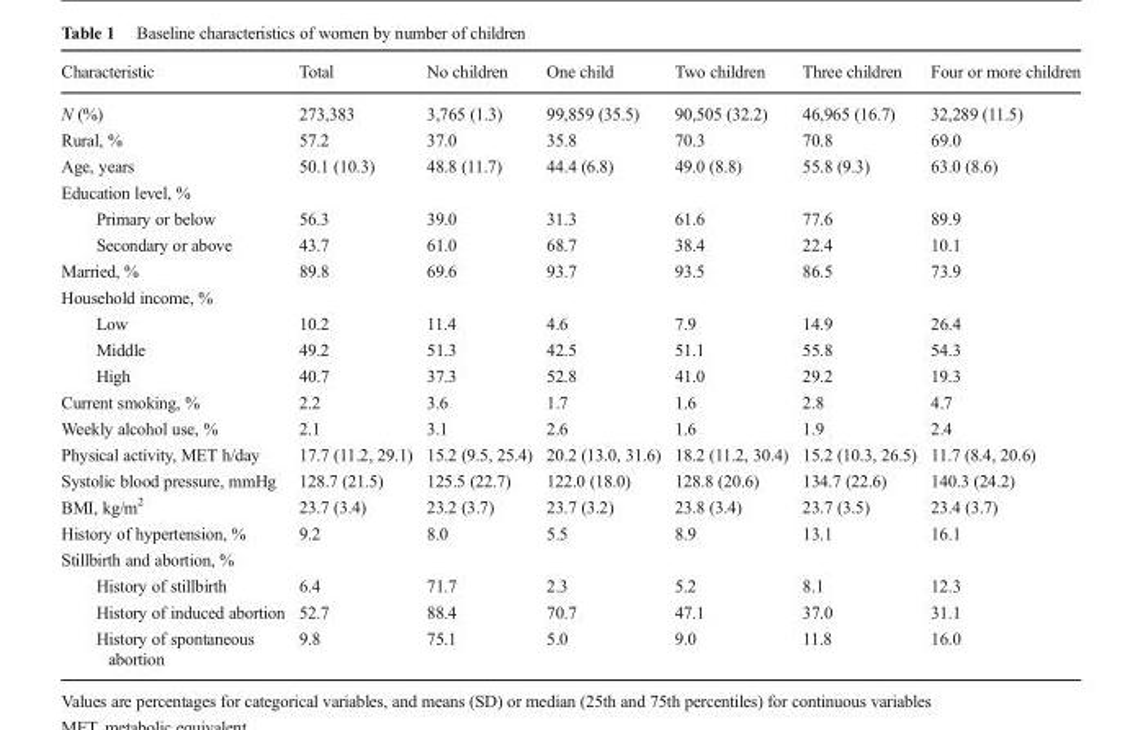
<table><thead><tr><td>Characteristic</td><td>Total</td><td>No children</td><td>One child</td><td>Two children</td><td>Three children</td><td>Four or more children</td></tr></thead><tbody><tr><td>N (%)</td><td>273,383</td><td>3,765 (1.3)</td><td>99,859 (35.5)</td><td>90,505 (32.2)</td><td>46,965 (16.7)</td><td>32,289 (11.5)</td></tr><tr><td>Rural, %</td><td>57.2</td><td>37.0</td><td>35.8</td><td>70.3</td><td>70.8</td><td>69.0</td></tr><tr><td>Age, years</td><td>50.1 (10.3)</td><td>48.8 (11.7)</td><td>44.4 (6.8)</td><td>49.0 (8.8)</td><td>55.8 (9.3)</td><td>63.0 (8.6)</td></tr><tr><td colspan="7">Education level, %</td></tr><tr><td>Primary or below</td><td>56.3</td><td>39.0</td><td>31.3</td><td>61.6</td><td>77.6</td><td>89.9</td></tr><tr><td>Secondary or above</td><td>43.7</td><td>61.0</td><td>68.7</td><td>38.4</td><td>22.4</td><td>10.1</td></tr><tr><td>Married, %</td><td>89.8</td><td>69.6</td><td>93.7</td><td>93.5</td><td>86.5</td><td>73.9</td></tr><tr><td colspan="7">Household income, %</td></tr><tr><td>Low</td><td>10.2</td><td>11.4</td><td>4.6</td><td>7.9</td><td>14.9</td><td>26.4</td></tr><tr><td>Middle</td><td>49.2</td><td>51.3</td><td>42.5</td><td>51.1</td><td>55.8</td><td>54.3</td></tr><tr><td>High</td><td>40.7</td><td>37.3</td><td>52.8</td><td>41.0</td><td>29.2</td><td>19.3</td></tr><tr><td>Current smoking, %</td><td>2.2</td><td>3.6</td><td>1.7</td><td>1.6</td><td>2.8</td><td>4.7</td></tr><tr><td>Weekly alcohol use, %</td><td>2.1</td><td>3.1</td><td>2.6</td><td>1.6</td><td>1.9</td><td>2.4</td></tr><tr><td>Physical activity, MET h/day</td><td>17.7 (11.2, 29.1)</td><td>15.2 (9.5, 25.4)</td><td>20.2 (13.0, 31.6)</td><td>18.2 (11.2, 30.4)</td><td>15.2 (10.3, 26.5)</td><td>11.7 (8.4, 20.6)</td></tr><tr><td>Systolic blood pressure, mmHg</td><td>128.7 (21.5)</td><td>125.5 (22.7)</td><td>122.0 (18.0)</td><td>128.8 (20.6)</td><td>134.7 (22.6)</td><td>140.3 (24.2)</td></tr><tr><td>BMI, kg/m<sup>2</sup></td><td>23.7 (3.4)</td><td>23.2 (3.7)</td><td>23.7 (3.2)</td><td>23.8 (3.4)</td><td>23.7 (3.5)</td><td>23.4 (3.7)</td></tr><tr><td>History of hypertension, %</td><td>9.2</td><td>8.0</td><td>5.5</td><td>8.9</td><td>13.1</td><td>16.1</td></tr><tr><td colspan="7">Stillbirth and abortion, %</td></tr><tr><td>History of stillbirth</td><td>6.4</td><td>71.7</td><td>2.3</td><td>5.2</td><td>8.1</td><td>12.3</td></tr><tr><td>History of induced abortion</td><td>52.7</td><td>88.4</td><td>70.7</td><td>47.1</td><td>37.0</td><td>31.1</td></tr><tr><td>History of spontaneous abortion</td><td>9.8</td><td>75.1</td><td>5.0</td><td>9.0</td><td>11.8</td><td>16.0</td></tr></tbody></table>